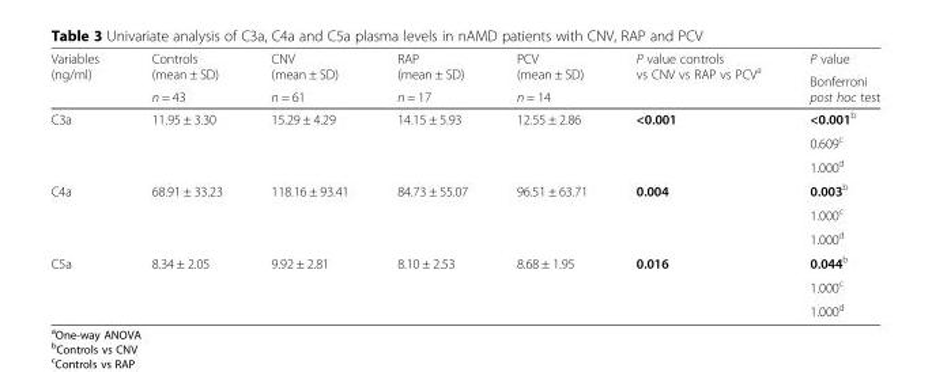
<table><thead><tr><td rowspan="3">Variables (ng/ml)</td><td rowspan="3">Controls (mean ± SD) n = 43</td><td rowspan="3">CNV (mean ± SD) n = 61</td><td rowspan="3">RAP (mean ± SD) n = 17</td><td rowspan="3">PCV (mean ± SD) n = 14</td><td rowspan="3">P value controls vs CNV vs RAP vs PCV<sup>a</sup></td><td rowspan="3">P value Bonferroni post hoc test</td></tr><tr></tr><tr></tr></thead><tbody><tr><td rowspan="3">C3a</td><td rowspan="3">11.95 ± 3.30</td><td rowspan="3">15.29 ± 4.29</td><td rowspan="3">14.15 ± 5.93</td><td rowspan="3">12.55 ± 2.86</td><td rowspan="3">&lt;0.001</td><td>&lt;0.001<sup>b</sup></td></tr><tr><td>0.609<sup>c</sup></td></tr><tr><td>1.000<sup>d</sup></td></tr><tr><td rowspan="3">C4a</td><td rowspan="3">68.91 ± 33.23</td><td rowspan="3">118.16 ± 93.41</td><td rowspan="3">84.73 ± 55.07</td><td rowspan="3">96.51 ± 63.71</td><td rowspan="3">0.004</td><td>0.003<sup>b</sup></td></tr><tr><td>1.000<sup>c</sup></td></tr><tr><td>1.000<sup>d</sup></td></tr><tr><td rowspan="3">C5a</td><td rowspan="3">8.34 ± 2.05</td><td rowspan="3">9.92 ± 2.81</td><td rowspan="3">8.10 ± 2.53</td><td rowspan="3">8.68 ± 1.95</td><td rowspan="3">0.016</td><td>0.044<sup>b</sup></td></tr><tr><td>1.000<sup>c</sup></td></tr><tr><td>1.000<sup>d</sup></td></tr></tbody></table>